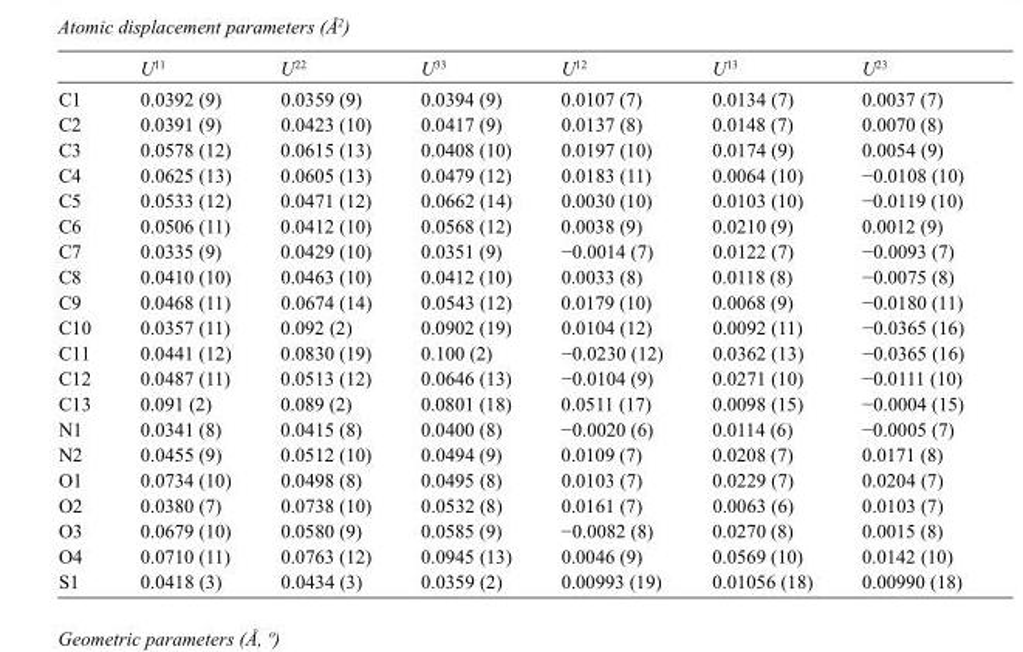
<table><thead><tr><td></td><td>U<sup>11</sup></td><td>U<sup>22</sup></td><td>U<sup>33</sup></td><td>U<sup>12</sup></td><td>U<sup>13</sup></td><td>U<sup>23</sup></td></tr></thead><tbody><tr><td>C1</td><td>0.0392 (9)</td><td>0.0359 (9)</td><td>0.0394 (9)</td><td>0.0107 (7)</td><td>0.0134 (7)</td><td>0.0037 (7)</td></tr><tr><td>C2</td><td>0.0391 (9)</td><td>0.0423 (10)</td><td>0.0417 (9)</td><td>0.0137 (8)</td><td>0.0148 (7)</td><td>0.0070 (8)</td></tr><tr><td>C3</td><td>0.0578 (12)</td><td>0.0615 (13)</td><td>0.0408 (10)</td><td>0.0197 (10)</td><td>0.0174 (9)</td><td>0.0054 (9)</td></tr><tr><td>C4</td><td>0.0625 (13)</td><td>0.0605 (13)</td><td>0.0479 (12)</td><td>0.0183 (11)</td><td>0.0064 (10)</td><td>−0.0108 (10)</td></tr><tr><td>C5</td><td>0.0533 (12)</td><td>0.0471 (12)</td><td>0.0662 (14)</td><td>0.0030 (10)</td><td>0.0103 (10)</td><td>−0.0119 (10)</td></tr><tr><td>C6</td><td>0.0506 (11)</td><td>0.0412 (10)</td><td>0.0568 (12)</td><td>0.0038 (9)</td><td>0.0210 (9)</td><td>0.0012 (9)</td></tr><tr><td>C7</td><td>0.0335 (9)</td><td>0.0429 (10)</td><td>0.0351 (9)</td><td>−0.0014 (7)</td><td>0.0122 (7)</td><td>−0.0093 (7)</td></tr><tr><td>C8</td><td>0.0410 (10)</td><td>0.0463 (10)</td><td>0.0412 (10)</td><td>0.0033 (8)</td><td>0.0118 (8)</td><td>−0.0075 (8)</td></tr><tr><td>C9</td><td>0.0468 (11)</td><td>0.0674 (14)</td><td>0.0543 (12)</td><td>0.0179 (10)</td><td>0.0068 (9)</td><td>−0.0180 (11)</td></tr><tr><td>C10</td><td>0.0357 (11)</td><td>0.092 (2)</td><td>0.0902 (19)</td><td>0.0104 (12)</td><td>0.0092 (11)</td><td>−0.0365 (16)</td></tr><tr><td>C11</td><td>0.0441 (12)</td><td>0.0830 (19)</td><td>0.100 (2)</td><td>−0.0230 (12)</td><td>0.0362 (13)</td><td>−0.0365 (16)</td></tr><tr><td>C12</td><td>0.0487 (11)</td><td>0.0513 (12)</td><td>0.0646 (13)</td><td>−0.0104 (9)</td><td>0.0271 (10)</td><td>−0.0111 (10)</td></tr><tr><td>C13</td><td>0.091 (2)</td><td>0.089 (2)</td><td>0.0801 (18)</td><td>0.0511 (17)</td><td>0.0098 (15)</td><td>−0.0004 (15)</td></tr><tr><td>N1</td><td>0.0341 (8)</td><td>0.0415 (8)</td><td>0.0400 (8)</td><td>−0.0020 (6)</td><td>0.0114 (6)</td><td>−0.0005 (7)</td></tr><tr><td>N2</td><td>0.0455 (9)</td><td>0.0512 (10)</td><td>0.0494 (9)</td><td>0.0109 (7)</td><td>0.0208 (7)</td><td>0.0171 (8)</td></tr><tr><td>O1</td><td>0.0734 (10)</td><td>0.0498 (8)</td><td>0.0495 (8)</td><td>0.0103 (7)</td><td>0.0229 (7)</td><td>0.0204 (7)</td></tr><tr><td>O2</td><td>0.0380 (7)</td><td>0.0738 (10)</td><td>0.0532 (8)</td><td>0.0161 (7)</td><td>0.0063 (6)</td><td>0.0103 (7)</td></tr><tr><td>O3</td><td>0.0679 (10)</td><td>0.0580 (9)</td><td>0.0585 (9)</td><td>−0.0082 (8)</td><td>0.0270 (8)</td><td>0.0015 (8)</td></tr><tr><td>O4</td><td>0.0710 (11)</td><td>0.0763 (12)</td><td>0.0945 (13)</td><td>0.0046 (9)</td><td>0.0569 (10)</td><td>0.0142 (10)</td></tr><tr><td>S1</td><td>0.0418 (3)</td><td>0.0434 (3)</td><td>0.0359 (2)</td><td>0.00993 (19)</td><td>0.01056 (18)</td><td>0.00990 (18)</td></tr></tbody></table>